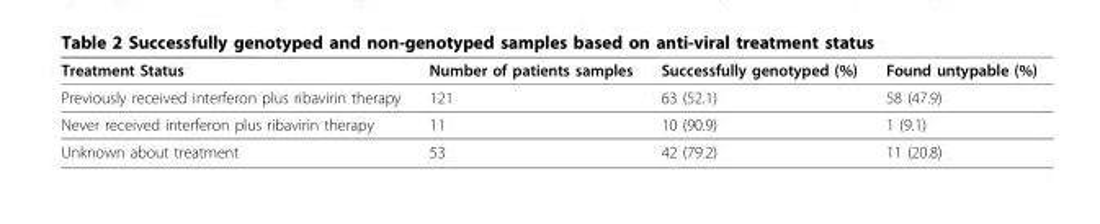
<table><thead><tr><td>Treatment Status</td><td>Number of patients samples</td><td>Successfully genotyped (%)</td><td>Found untypable (%)</td></tr></thead><tbody><tr><td>Previously received interferon plus ribavirin therapy</td><td>121</td><td>63 (52.1)</td><td>58 (47.9)</td></tr><tr><td>Never received interferon plus ribavirin therapy</td><td>11</td><td>10 (90.9)</td><td>1 (9.1)</td></tr><tr><td>Unknown about treatment</td><td>53</td><td>42 (79.2)</td><td>11 (20.8)</td></tr></tbody></table>